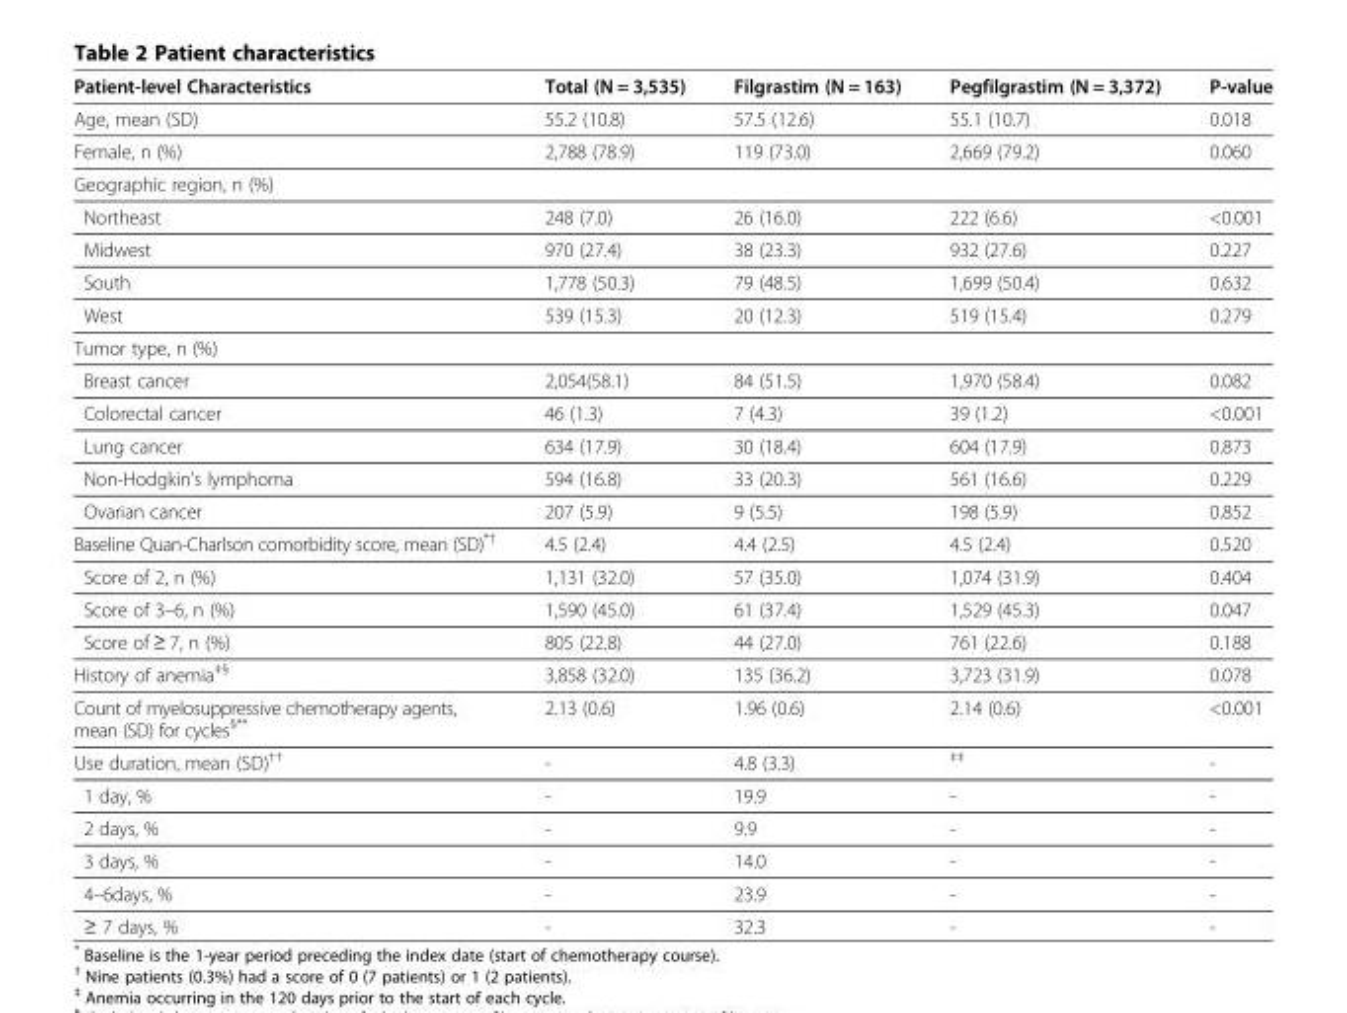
<table><thead><tr><td>Patient-level Characteristics</td><td>Total (N = 3,535)</td><td>Filgrastim (N = 163)</td><td>Pegfilgrastim (N = 3,372)</td><td>P-value</td></tr></thead><tbody><tr><td>Age, mean (SD)</td><td>55.2 (10.8)</td><td>57.5 (12.6)</td><td>55.1 (10.7)</td><td>0.018</td></tr><tr><td>Female, n (%)</td><td>2,788 (78.9)</td><td>119 (73.0)</td><td>2,669 (79.2)</td><td>0.060</td></tr><tr><td colspan="5">Geographic region, n (%)</td></tr><tr><td>Northeast</td><td>248 (7.0)</td><td>26 (16.0)</td><td>222 (6.6)</td><td>&lt;0.001</td></tr><tr><td>Midwest</td><td>970 (27.4)</td><td>38 (23.3)</td><td>932 (27.6)</td><td>0.227</td></tr><tr><td>South</td><td>1,778 (50.3)</td><td>79 (48.5)</td><td>1,699 (50.4)</td><td>0.632</td></tr><tr><td>West</td><td>539 (15.3)</td><td>20 (12.3)</td><td>519 (15.4)</td><td>0.279</td></tr><tr><td colspan="5">Tumor type, n (%)</td></tr><tr><td>Breast cancer</td><td>2,054(58.1)</td><td>84 (51.5)</td><td>1,970 (58.4)</td><td>0.082</td></tr><tr><td>Colorectal cancer</td><td>46 (1.3)</td><td>7 (4.3)</td><td>39 (1.2)</td><td>&lt;0.001</td></tr><tr><td>Lung cancer</td><td>634 (17.9)</td><td>30 (18.4)</td><td>604 (17.9)</td><td>0.873</td></tr><tr><td>Non-Hodgkin’s lymphoma</td><td>594 (16.8)</td><td>33 (20.3)</td><td>561 (16.6)</td><td>0.229</td></tr><tr><td>Ovarian cancer</td><td>207 (5.9)</td><td>9 (5.5)</td><td>198 (5.9)</td><td>0.852</td></tr><tr><td>Baseline Quan-Charlson comorbidity score, mean (SD)<sup>*†</sup></td><td>4.5 (2.4)</td><td>4.4 (2.5)</td><td>4.5 (2.4)</td><td>0.520</td></tr><tr><td>Score of 2, n (%)</td><td>1,131 (32.0)</td><td>57 (35.0)</td><td>1,074 (31.9)</td><td>0.404</td></tr><tr><td>Score of 3–6, n (%)</td><td>1,590 (45.0)</td><td>61 (37.4)</td><td>1,529 (45.3)</td><td>0.047</td></tr><tr><td>Score of ≥ 7, n (%)</td><td>805 (22.8)</td><td>44 (27.0)</td><td>761 (22.6)</td><td>0.188</td></tr><tr><td>History of anemia<sup>‡§</sup></td><td>3,858 (32.0)</td><td>135 (36.2)</td><td>3,723 (31.9)</td><td>0.078</td></tr><tr><td>Count of myelosuppressive chemotherapy agents, mean (SD) for cycles<sup>§**</sup></td><td>2.13 (0.6)</td><td>1.96 (0.6)</td><td>2.14 (0.6)</td><td>&lt;0.001</td></tr><tr><td>Use duration, mean (SD)<sup>††</sup></td><td>-</td><td>4.8 (3.3)</td><td><sup>‡‡</sup></td><td>-</td></tr><tr><td>1 day, %</td><td>-</td><td>19.9</td><td>-</td><td>-</td></tr><tr><td>2 days, %</td><td>-</td><td>9.9</td><td>-</td><td>-</td></tr><tr><td>3 days, %</td><td>-</td><td>14.0</td><td>-</td><td>-</td></tr><tr><td>4–6days, %</td><td>-</td><td>23.9</td><td>-</td><td>-</td></tr><tr><td>≥ 7 days, %</td><td>-</td><td>32.3</td><td>-</td><td>-</td></tr></tbody></table>